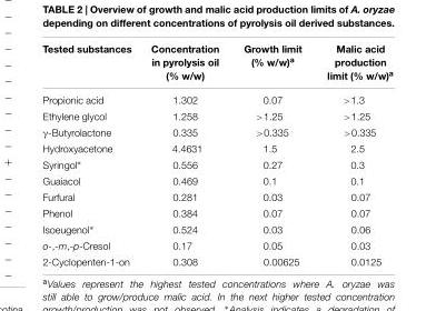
<table><thead><tr><td>Tested substances</td><td>Concentration in pyrolysis oil (% w/w)</td><td>Growth limit (% w/w)<sup>a</sup></td><td>Malic acid production limit (% w/w)<sup>a</sup></td></tr></thead><tbody><tr><td>Propionic acid</td><td>1.302</td><td>0.07</td><td>&gt;1.3</td></tr><tr><td>Ethylene glycol</td><td>1.258</td><td>&gt;1.25</td><td>&gt;1.25</td></tr><tr><td>γ-Butyrolactone</td><td>0.335</td><td>&gt;0.335</td><td>&gt;0.335</td></tr><tr><td>Hydroxyacetone</td><td>4.4631</td><td>1.5</td><td>2.5</td></tr><tr><td>Syringol∗</td><td>0.556</td><td>0.27</td><td>0.3</td></tr><tr><td>Guaiacol</td><td>0.469</td><td>0.1</td><td>0.1</td></tr><tr><td>Furfural</td><td>0.281</td><td>0.03</td><td>0.07</td></tr><tr><td>Phenol</td><td>0.384</td><td>0.07</td><td>0.07</td></tr><tr><td>Isoeugenol∗</td><td>0.524</td><td>0.03</td><td>0.06</td></tr><tr><td>o-,-m,-p-Cresol</td><td>0.17</td><td>0.05</td><td>0.03</td></tr><tr><td>2-Cyclopenten-1-on</td><td>0.308</td><td>0.00625</td><td>0.0125</td></tr></tbody></table>